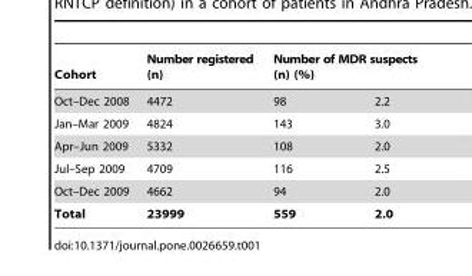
<table><thead><tr><td rowspan="2">Cohort Oct–Dec 2008</td><td rowspan="2">Number registered (n) 4472</td><td colspan="2">Number of MDR suspects (n) (%)</td></tr><tr><td>98</td><td>2.2</td></tr></thead><tbody><tr><td>Jan–Mar 2009</td><td>4824</td><td>143</td><td>3.0</td></tr><tr><td>Apr–Jun 2009</td><td>5332</td><td>108</td><td>2.0</td></tr><tr><td>Jul–Sep 2009</td><td>4709</td><td>116</td><td>2.5</td></tr><tr><td>Oct–Dec 2009</td><td>4662</td><td>94</td><td>2.0</td></tr><tr><td>Total</td><td>23999</td><td>559</td><td>2.0</td></tr></tbody></table>